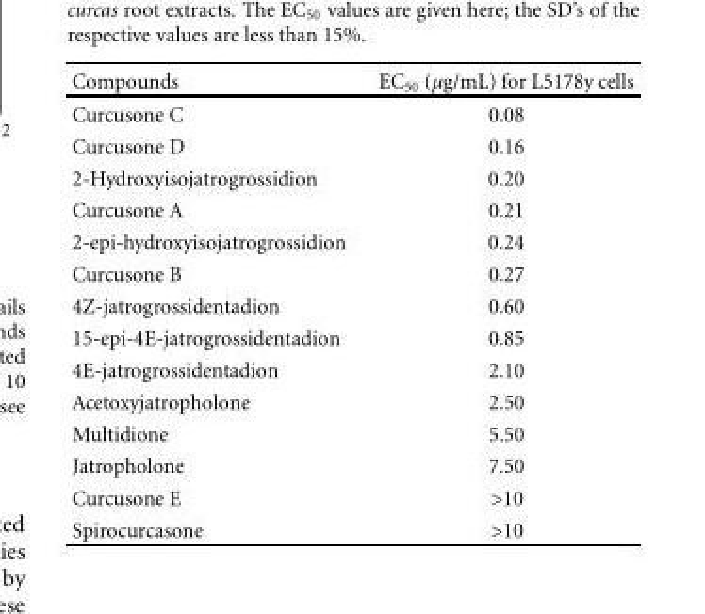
<table><thead><tr><td>Compounds</td><td>EC<sub>50</sub> (µg/mL) for L5178y cells</td></tr></thead><tbody><tr><td>Curcusone C</td><td>0.08</td></tr><tr><td>Curcusone D</td><td>0.16</td></tr><tr><td>2-Hydroxyisojatrogrossidion</td><td>0.20</td></tr><tr><td>Curcusone A</td><td>0.21</td></tr><tr><td>2-epi-hydroxyisojatrogrossidion</td><td>0.24</td></tr><tr><td>Curcusone B</td><td>0.27</td></tr><tr><td>4Z-jatrogrossidentadion</td><td>0.60</td></tr><tr><td>15-epi-4E-jatrogrossidentadion</td><td>0.85</td></tr><tr><td>4E-jatrogrossidentadion</td><td>2.10</td></tr><tr><td>Acetoxyjatropholone</td><td>2.50</td></tr><tr><td>Multidione</td><td>5.50</td></tr><tr><td>Jatropholone</td><td>7.50</td></tr><tr><td>Curcusone E</td><td>&gt;10</td></tr><tr><td>Spirocurcasone</td><td>&gt;10</td></tr></tbody></table>